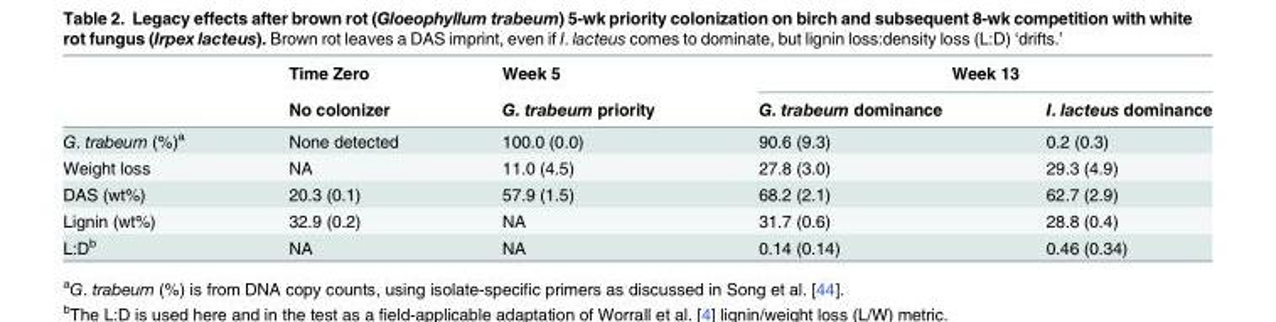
<table><thead><tr><td rowspan="2"></td><td rowspan="2">Time Zero No colonizer</td><td rowspan="2">Week 5 G. trabeum priority</td><td colspan="2">Week 13</td></tr><tr><td>G. trabeum dominance</td><td>I. lacteus dominance</td></tr></thead><tbody><tr><td>G. trabeum (%)<sup>a</sup></td><td>None detected</td><td>100.0 (0.0)</td><td>90.6 (9.3)</td><td>0.2 (0.3)</td></tr><tr><td>Weight loss</td><td>NA</td><td>11.0 (4.5)</td><td>27.8 (3.0)</td><td>29.3 (4.9)</td></tr><tr><td>DAS (wt%)</td><td>20.3 (0.1)</td><td>57.9 (1.5)</td><td>68.2 (2.1)</td><td>62.7 (2.9)</td></tr><tr><td>Lignin (wt%)</td><td>32.9 (0.2)</td><td>NA</td><td>31.7 (0.6)</td><td>28.8 (0.4)</td></tr><tr><td>L:D<sup>b</sup></td><td>NA</td><td>NA</td><td>0.14 (0.14)</td><td>0.46 (0.34)</td></tr></tbody></table>